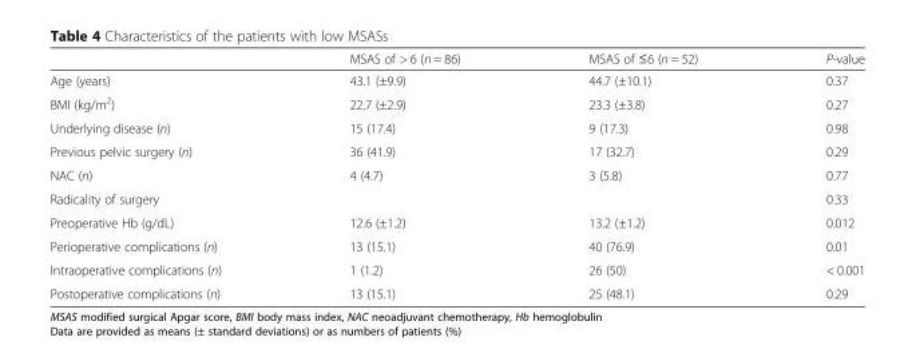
<table><thead><tr><td></td><td>MSAS of &gt; 6 (n = 86)</td><td>MSAS of ≤6 (n = 52)</td><td>P-value</td></tr></thead><tbody><tr><td>Age (years)</td><td>43.1 (±9.9)</td><td>44.7 (±10.1)</td><td>0.37</td></tr><tr><td>BMI (kg/m<sup>2</sup>)</td><td>22.7 (±2.9)</td><td>23.3 (±3.8)</td><td>0.27</td></tr><tr><td>Underlying disease (n)</td><td>15 (17.4)</td><td>9 (17.3)</td><td>0.98</td></tr><tr><td>Previous pelvic surgery (n)</td><td>36 (41.9)</td><td>17 (32.7)</td><td>0.29</td></tr><tr><td>NAC (n)</td><td>4 (4.7)</td><td>3 (5.8)</td><td>0.77</td></tr><tr><td>Radicality of surgery</td><td></td><td></td><td>0.33</td></tr><tr><td>Preoperative Hb (g/dL)</td><td>12.6 (±1.2)</td><td>13.2 (±1.2)</td><td>0.012</td></tr><tr><td>Perioperative complications (n)</td><td>13 (15.1)</td><td>40 (76.9)</td><td>0.01</td></tr><tr><td>Intraoperative complications (n)</td><td>1 (1.2)</td><td>26 (50)</td><td>&lt; 0.001</td></tr><tr><td>Postoperative complications (n)</td><td>13 (15.1)</td><td>25 (48.1)</td><td>0.29</td></tr></tbody></table>